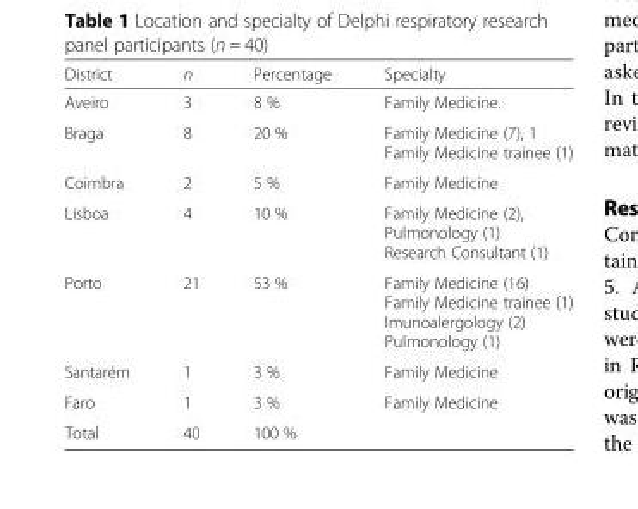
<table><thead><tr><td>District</td><td>n</td><td>Percentage</td><td>Specialty</td></tr></thead><tbody><tr><td>Aveiro</td><td>3</td><td>8 %</td><td>Family Medicine.</td></tr><tr><td>Braga</td><td>8</td><td>20 %</td><td>Family Medicine (7), 1 Family Medicine trainee (1)</td></tr><tr><td>Coimbra</td><td>2</td><td>5 %</td><td>Family Medicine</td></tr><tr><td>Lisboa</td><td>4</td><td>10 %</td><td>Family Medicine (2), Pulmonology (1) Research Consultant (1)</td></tr><tr><td>Porto</td><td>21</td><td>53 %</td><td>Family Medicine (16) Family Medicine trainee (1) Imunoalergology (2) Pulmonology (1)</td></tr><tr><td>Santarém</td><td>1</td><td>3 %</td><td>Family Medicine</td></tr><tr><td>Faro</td><td>1</td><td>3 %</td><td>Family Medicine</td></tr><tr><td>Total</td><td>40</td><td>100 %</td><td></td></tr></tbody></table>